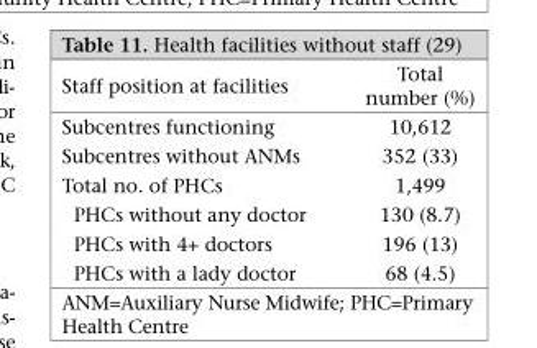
<table><thead><tr><td>Staff position at facilities</td><td>Total number (%)</td></tr></thead><tbody><tr><td>Subcentres functioning</td><td>10,612</td></tr><tr><td>Subcentres without ANMs</td><td>352 (33)</td></tr><tr><td>Total no. of PHCs</td><td>1,499</td></tr><tr><td>PHCs without any doctor</td><td>130 (8.7)</td></tr><tr><td>PHCs with 4+ doctors</td><td>196 (13)</td></tr><tr><td>PHCs with a lady doctor</td><td>68 (4.5)</td></tr></tbody></table>